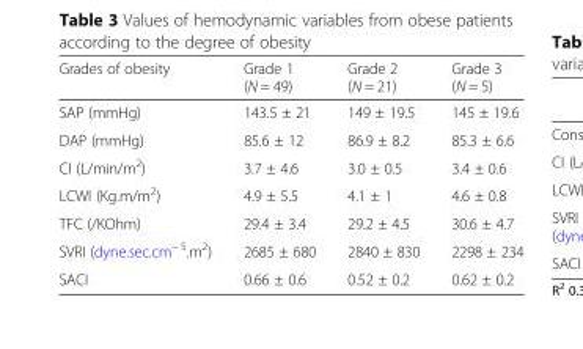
<table><thead><tr><td>Grades of obesity</td><td>Grade 1 (N = 49)</td><td>Grade 2 (N = 21)</td><td>Grade 3 (N = 5)</td></tr></thead><tbody><tr><td>SAP (mmHg)</td><td>143.5 ± 21</td><td>149 ± 19.5</td><td>145 ± 19.6</td></tr><tr><td>DAP (mmHg)</td><td>85.6 ± 12</td><td>86.9 ± 8.2</td><td>85.3 ± 6.6</td></tr><tr><td>CI (L/min/m<sup>2</sup>)</td><td>3.7 ± 4.6</td><td>3.0 ± 0.5</td><td>3.4 ± 0.6</td></tr><tr><td>LCWI (Kg.m/m<sup>2</sup>)</td><td>4.9 ± 5.5</td><td>4.1 ± 1</td><td>4.6 ± 0.8</td></tr><tr><td>TFC (/KOhm)</td><td>29.4 ± 3.4</td><td>29.2 ± 4.5</td><td>30.6 ± 4.7</td></tr><tr><td>SVRI (dyne.sec.cm<sup>− 5</sup>.m<sup>2</sup>)</td><td>2685 ± 680</td><td>2840 ± 830</td><td>2298 ± 234</td></tr><tr><td>SACI</td><td>0.66 ± 0.6</td><td>0.52 ± 0.2</td><td>0.62 ± 0.2</td></tr></tbody></table>